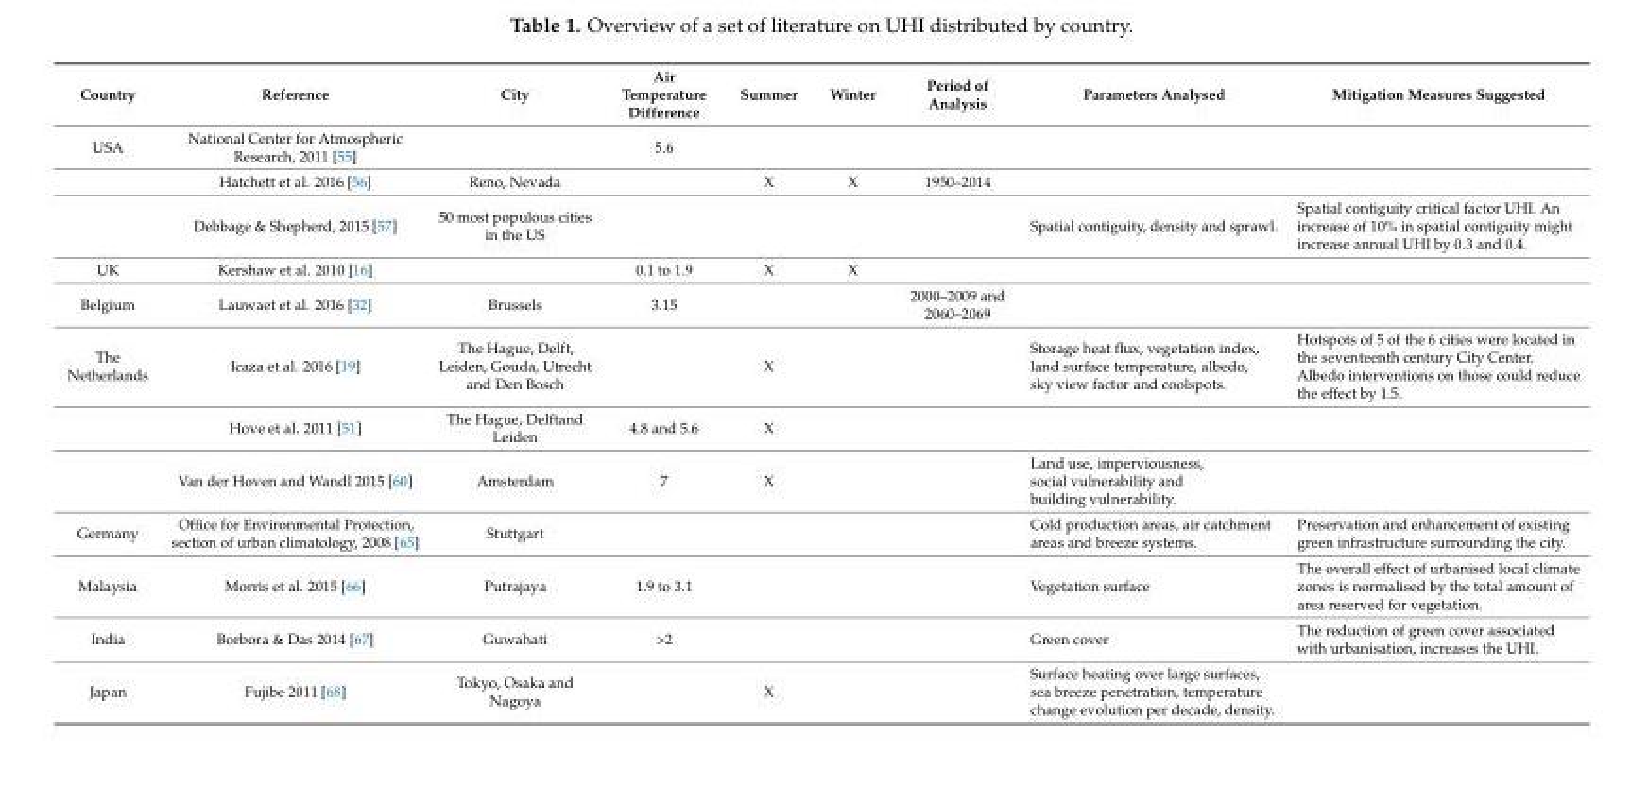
<table><thead><tr><td>Country</td><td>Reference</td><td>City</td><td>Air Temperature Difference</td><td>Summer</td><td>Winter</td><td>Period of Analysis</td><td>Parameters Analysed</td><td>Mitigation Measures Suggested</td></tr></thead><tbody><tr><td rowspan="3">USA</td><td>National Center for Atmospheric Research, 2011 [55]</td><td></td><td>5.6</td><td></td><td></td><td></td><td></td><td></td></tr><tr><td>Hatchett et al. 2016 [56]</td><td>Reno, Nevada</td><td></td><td>X</td><td>X</td><td>1950–2014</td><td></td><td></td></tr><tr><td>Debbage &amp; Shepherd, 2015 [57]</td><td>50 most populous cities in the US</td><td></td><td></td><td></td><td></td><td>Spatial contiguity, density and sprawl.</td><td>Spatial contiguity critical factor UHI. An increase of 10% in spatial contiguity might increase annual UHI by 0.3 and 0.4.</td></tr><tr><td>UK</td><td>Kershaw et al. 2010 [16]</td><td></td><td>0.1 to 1.9</td><td>X</td><td>X</td><td></td><td></td><td></td></tr><tr><td>Belgium</td><td>Lauwaet et al. 2016 [32]</td><td>Brussels</td><td>3.15</td><td></td><td></td><td>2000–2009 and 2060–2069</td><td></td><td></td></tr><tr><td rowspan="3">The Netherlands</td><td>Icaza et al. 2016 [19]</td><td>The Hague, Delft, Leiden, Gouda, Utrecht and Den Bosch</td><td></td><td>X</td><td></td><td></td><td>Storage heat flux, vegetation index, land surface temperature, albedo, sky view factor and coolspots.</td><td>Hotspots of 5 of the 6 cities were located in the seventeenth century City Center. Albedo interventions on those could reduce the effect by 1.5.</td></tr><tr><td>Hove et al. 2011 [51]</td><td>The Hague, Delftand Leiden</td><td>4.8 and 5.6</td><td>X</td><td></td><td></td><td></td><td></td></tr><tr><td>Van der Hoven and Wandl 2015 [60]</td><td>Amsterdam</td><td>7</td><td>X</td><td></td><td></td><td>Land use, imperviousness, social vulnerability and building vulnerability.</td><td></td></tr><tr><td>Germany</td><td>Office for Environmental Protection, section of urban climatology, 2008 [65]</td><td>Stuttgart</td><td></td><td></td><td></td><td></td><td>Cold production areas, air catchment areas and breeze systems.</td><td>Preservation and enhancement of existing green infrastructure surrounding the city.</td></tr><tr><td>Malaysia</td><td>Morris et al. 2015 [66]</td><td>Putrajaya</td><td>1.9 to 3.1</td><td></td><td></td><td></td><td>Vegetation surface</td><td>The overall effect of urbanised local climate zones is normalised by the total amount of area reserved for vegetation.</td></tr><tr><td>India</td><td>Borbora &amp; Das 2014 [67]</td><td>Guwahati</td><td>&gt;2</td><td></td><td></td><td></td><td>Green cover</td><td>The reduction of green cover associated with urbanisation, increases the UHI.</td></tr><tr><td>Japan</td><td>Fujibe 2011 [68]</td><td>Tokyo, Osaka and Nagoya</td><td></td><td>X</td><td></td><td></td><td>Surface heating over large surfaces, sea breeze penetration, temperature change evolution per decade, density.</td><td></td></tr></tbody></table>